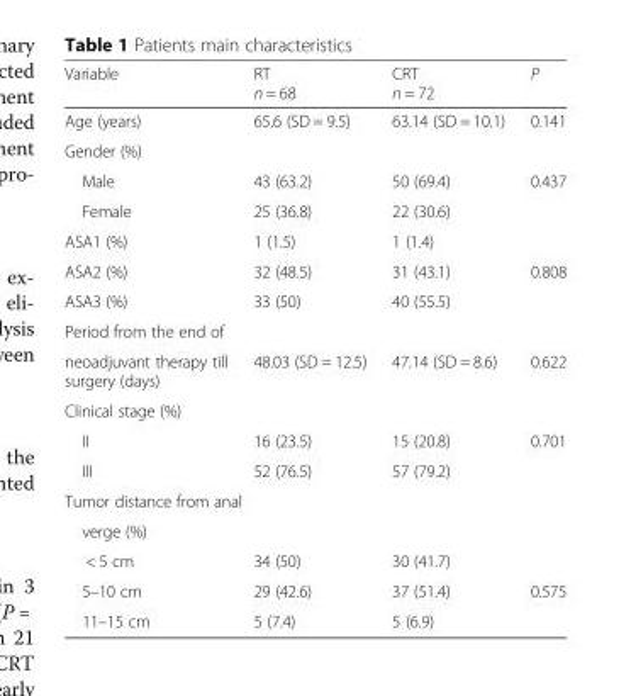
<table><thead><tr><td>Variable</td><td>RT n = 68</td><td>CRT n = 72</td><td>P</td></tr></thead><tbody><tr><td>Age (years)</td><td>65.6 (SD = 9.5)</td><td>63.14 (SD = 10.1)</td><td>0.141</td></tr><tr><td colspan="4">Gender (%)</td></tr><tr><td>Male</td><td>43 (63.2)</td><td>50 (69.4)</td><td>0.437</td></tr><tr><td>Female</td><td>25 (36.8)</td><td>22 (30.6)</td><td></td></tr><tr><td>ASA1 (%)</td><td>1 (1.5)</td><td>1 (1.4)</td><td></td></tr><tr><td>ASA2 (%)</td><td>32 (48.5)</td><td>31 (43.1)</td><td>0.808</td></tr><tr><td>ASA3 (%)</td><td>33 (50)</td><td>40 (55.5)</td><td></td></tr><tr><td colspan="4">Period from the end of</td></tr><tr><td>neoadjuvant therapy till surgery (days)</td><td>48.03 (SD = 12.5)</td><td>47.14 (SD = 8.6)</td><td>0.622</td></tr><tr><td colspan="4">Clinical stage (%)</td></tr><tr><td>II</td><td>16 (23.5)</td><td>15 (20.8)</td><td>0.701</td></tr><tr><td>III</td><td>52 (76.5)</td><td>57 (79.2)</td><td></td></tr><tr><td colspan="4">Tumor distance from anal</td></tr><tr><td colspan="4">verge (%)</td></tr><tr><td>&lt; 5 cm</td><td>34 (50)</td><td>30 (41.7)</td><td></td></tr><tr><td>5–10 cm</td><td>29 (42.6)</td><td>37 (51.4)</td><td>0.575</td></tr><tr><td>11–15 cm</td><td>5 (7.4)</td><td>5 (6.9)</td><td></td></tr></tbody></table>